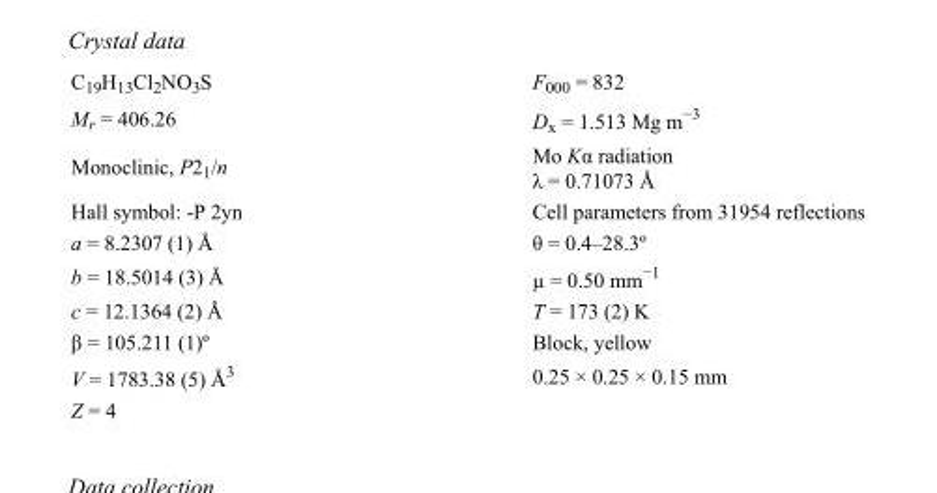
<table><tbody><tr><td>C<sub>19</sub>H<sub>13</sub>Cl<sub>2</sub>NO<sub>3</sub>S</td><td>F<sub>000</sub> = 832</td></tr><tr><td>M<sub>r</sub> = 406.26</td><td>D<sub>x</sub> = 1.513 Mg m<sup>−3</sup></td></tr><tr><td>Monoclinic, P2<sub>1</sub>/n</td><td>Mo Kα radiation λ = 0.71073 Å</td></tr><tr><td>Hall symbol: -P 2yn</td><td>Cell parameters from 31954 reflections</td></tr><tr><td>a = 8.2307 (1) Å</td><td>θ = 0.4–28.3º</td></tr><tr><td>b = 18.5014 (3) Å</td><td>µ = 0.50 mm<sup>−1</sup></td></tr><tr><td>c = 12.1364 (2) Å</td><td>T = 173 (2) K</td></tr><tr><td>β = 105.211 (1)º</td><td>Block, yellow</td></tr><tr><td>V = 1783.38 (5) Å<sup>3</sup></td><td>0.25 × 0.25 × 0.15 mm</td></tr><tr><td>Z = 4</td><td></td></tr></tbody></table>